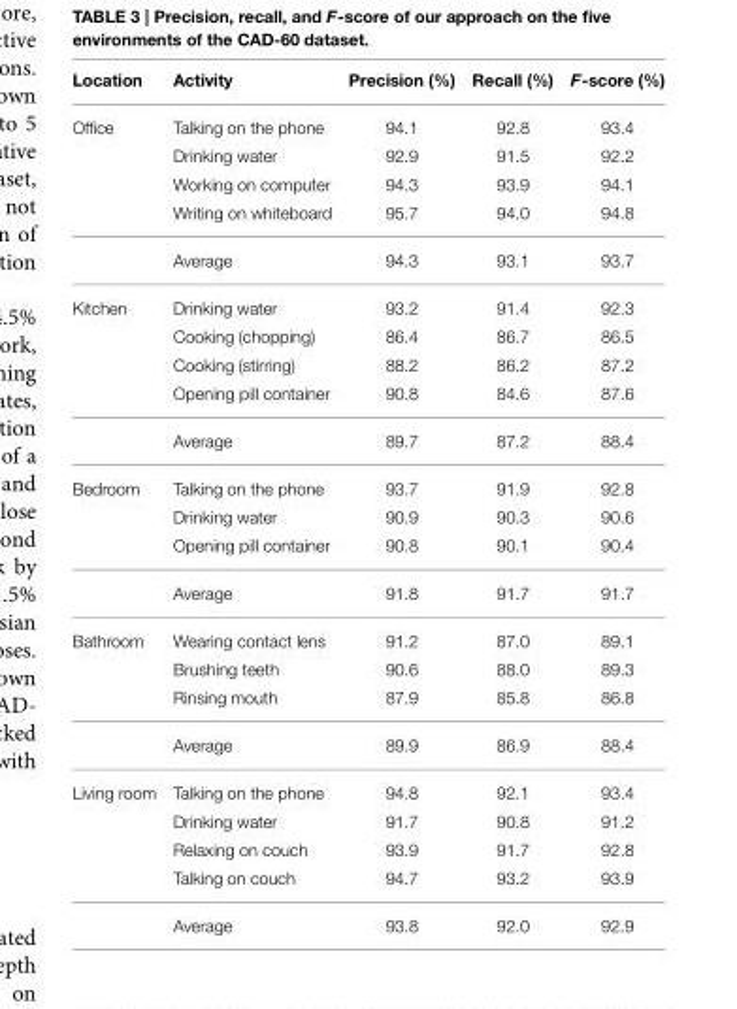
<table><thead><tr><td>Location</td><td>Activity</td><td>Precision (%)</td><td>Recall (%)</td><td>F-score (%)</td></tr></thead><tbody><tr><td rowspan="5">Office</td><td>Talking on the phone</td><td>94.1</td><td>92.8</td><td>93.4</td></tr><tr><td>Drinking water</td><td>92.9</td><td>91.5</td><td>92.2</td></tr><tr><td>Working on computer</td><td>94.3</td><td>93.9</td><td>94.1</td></tr><tr><td>Writing on whiteboard</td><td>95.7</td><td>94.0</td><td>94.8</td></tr><tr><td>Average</td><td>94.3</td><td>93.1</td><td>93.7</td></tr><tr><td rowspan="5">Kitchen</td><td>Drinking water</td><td>93.2</td><td>91.4</td><td>92.3</td></tr><tr><td>Cooking (chopping)</td><td>86.4</td><td>86.7</td><td>86.5</td></tr><tr><td>Cooking (stirring)</td><td>88.2</td><td>86.2</td><td>87.2</td></tr><tr><td>Opening pill container</td><td>90.8</td><td>84.6</td><td>87.6</td></tr><tr><td>Average</td><td>89.7</td><td>87.2</td><td>88.4</td></tr><tr><td rowspan="4">Bedroom</td><td>Talking on the phone</td><td>93.7</td><td>91.9</td><td>92.8</td></tr><tr><td>Drinking water</td><td>90.9</td><td>90.3</td><td>90.6</td></tr><tr><td>Opening pill container</td><td>90.8</td><td>90.1</td><td>90.4</td></tr><tr><td>Average</td><td>91.8</td><td>91.7</td><td>91.7</td></tr><tr><td rowspan="4">Bathroom</td><td>Wearing contact lens</td><td>91.2</td><td>87.0</td><td>89.1</td></tr><tr><td>Brushing teeth</td><td>90.6</td><td>88.0</td><td>89.3</td></tr><tr><td>Rinsing mouth</td><td>87.9</td><td>85.8</td><td>86.8</td></tr><tr><td>Average</td><td>89.9</td><td>86.9</td><td>88.4</td></tr><tr><td rowspan="5">Living room</td><td>Talking on the phone</td><td>94.8</td><td>92.1</td><td>93.4</td></tr><tr><td>Drinking water</td><td>91.7</td><td>90.8</td><td>91.2</td></tr><tr><td>Relaxing on couch</td><td>93.9</td><td>91.7</td><td>92.8</td></tr><tr><td>Talking on couch</td><td>94.7</td><td>93.2</td><td>93.9</td></tr><tr><td>Average</td><td>93.8</td><td>92.0</td><td>92.9</td></tr></tbody></table>